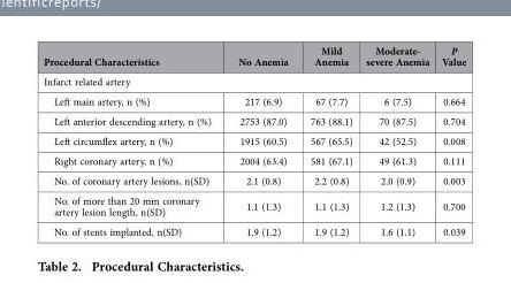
<table><thead><tr><td>Procedural Characteristics</td><td>No Anemia</td><td>Mild Anemia</td><td>Moderate- severe Anemia</td><td>P Value</td></tr></thead><tbody><tr><td colspan="5">Infarct related artery</td></tr><tr><td>Left main artery, n (%)</td><td>217 (6.9)</td><td>67 (7.7)</td><td>6 (7.5)</td><td>0.664</td></tr><tr><td>Left anterior descending artery, n (%)</td><td>2753 (87.0)</td><td>763 (88.1)</td><td>70 (87.5)</td><td>0.704</td></tr><tr><td>Left circumflex artery, n (%)</td><td>1915 (60.5)</td><td>567 (65.5)</td><td>42 (52.5)</td><td>0.008</td></tr><tr><td>Right coronary artery, n (%)</td><td>2004 (63.4)</td><td>581 (67.1)</td><td>49 (61.3)</td><td>0.111</td></tr><tr><td>No. of coronary artery lesions, n(SD)</td><td>2.1 (0.8)</td><td>2.2 (0.8)</td><td>2.0 (0.9)</td><td>0.003</td></tr><tr><td>No. of more than 20 mm coronary artery lesion length, n(SD)</td><td>1.1 (1.3)</td><td>1.1 (1.3)</td><td>1.2 (1.3)</td><td>0.700</td></tr><tr><td>No. of stents implanted, n(SD)</td><td>1.9 (1.2)</td><td>1.9 (1.2)</td><td>1.6 (1.1)</td><td>0.039</td></tr></tbody></table>